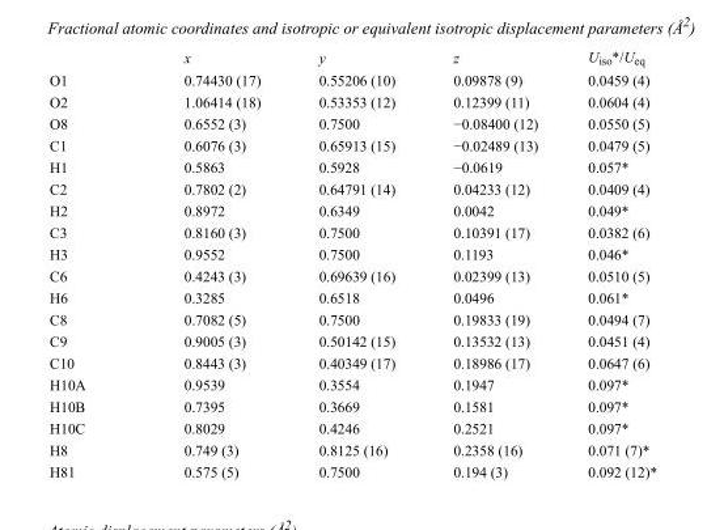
<table><thead><tr><td></td><td>x</td><td>y</td><td>z</td><td>U<sub>iso</sub>*/U<sub>eq</sub></td></tr></thead><tbody><tr><td>O1</td><td>0.74430 (17)</td><td>0.55206 (10)</td><td>0.09878 (9)</td><td>0.0459 (4)</td></tr><tr><td>O2</td><td>1.06414 (18)</td><td>0.53353 (12)</td><td>0.12399 (11)</td><td>0.0604 (4)</td></tr><tr><td>O8</td><td>0.6552 (3)</td><td>0.7500</td><td>−0.08400 (12)</td><td>0.0550 (5)</td></tr><tr><td>C1</td><td>0.6076 (3)</td><td>0.65913 (15)</td><td>−0.02489 (13)</td><td>0.0479 (5)</td></tr><tr><td>H1</td><td>0.5863</td><td>0.5928</td><td>−0.0619</td><td>0.057*</td></tr><tr><td>C2</td><td>0.7802 (2)</td><td>0.64791 (14)</td><td>0.04233 (12)</td><td>0.0409 (4)</td></tr><tr><td>H2</td><td>0.8972</td><td>0.6349</td><td>0.0042</td><td>0.049*</td></tr><tr><td>C3</td><td>0.8160 (3)</td><td>0.7500</td><td>0.10391 (17)</td><td>0.0382 (6)</td></tr><tr><td>H3</td><td>0.9552</td><td>0.7500</td><td>0.1193</td><td>0.046*</td></tr><tr><td>C6</td><td>0.4243 (3)</td><td>0.69639 (16)</td><td>0.02399 (13)</td><td>0.0510 (5)</td></tr><tr><td>H6</td><td>0.3285</td><td>0.6518</td><td>0.0496</td><td>0.061*</td></tr><tr><td>C8</td><td>0.7082 (5)</td><td>0.7500</td><td>0.19833 (19)</td><td>0.0494 (7)</td></tr><tr><td>C9</td><td>0.9005 (3)</td><td>0.50142 (15)</td><td>0.13532 (13)</td><td>0.0451 (4)</td></tr><tr><td>C10</td><td>0.8443 (3)</td><td>0.40349 (17)</td><td>0.18986 (17)</td><td>0.0647 (6)</td></tr><tr><td>H10A</td><td>0.9539</td><td>0.3554</td><td>0.1947</td><td>0.097*</td></tr><tr><td>H10B</td><td>0.7395</td><td>0.3669</td><td>0.1581</td><td>0.097*</td></tr><tr><td>H10C</td><td>0.8029</td><td>0.4246</td><td>0.2521</td><td>0.097*</td></tr><tr><td>H8</td><td>0.749 (3)</td><td>0.8125 (16)</td><td>0.2358 (16)</td><td>0.071 (7)*</td></tr><tr><td>H81</td><td>0.575 (5)</td><td>0.7500</td><td>0.194 (3)</td><td>0.092 (12)*</td></tr></tbody></table>